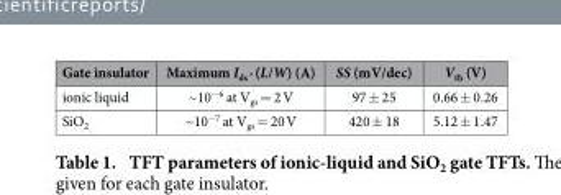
<table><tbody><tr><td>Gate insulator</td><td>Maximum I<sub>ds</sub> · (L/W) (A)</td><td>SS (mV/dec)</td><td>V<sub>th</sub> (V)</td></tr><tr><td>ionic liquid</td><td>~10<sup>−6</sup> at V<sub>gs</sub> = 2 V</td><td>97 ± 25</td><td>0.66 ± 0.26</td></tr><tr><td>SiO<sub>2</sub></td><td>~10<sup>−7</sup> at V<sub>gs</sub> = 20 V</td><td>420 ± 18</td><td>5.12 ± 1.47</td></tr></tbody></table>